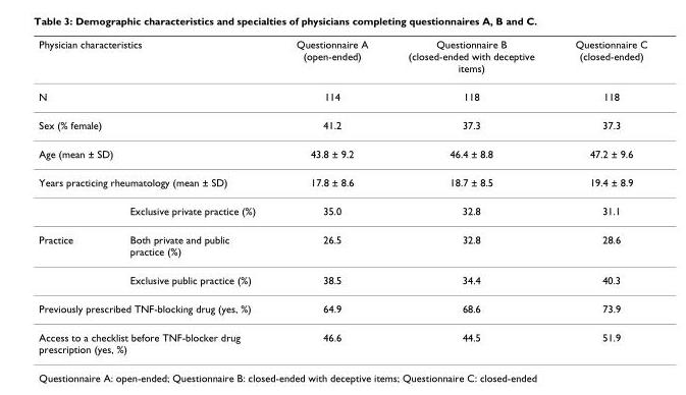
<table><thead><tr><td colspan="2">Physician characteristics</td><td>Questionnaire A (open-ended)</td><td>Questionnaire B (closed-ended with deceptive items)</td><td>Questionnaire C (closed-ended)</td></tr></thead><tbody><tr><td colspan="2">N</td><td>114</td><td>118</td><td>118</td></tr><tr><td colspan="2">Sex (% female)</td><td>41.2</td><td>37.3</td><td>37.3</td></tr><tr><td colspan="2">Age (mean ± SD)</td><td>43.8 ± 9.2</td><td>46.4 ± 8.8</td><td>47.2 ± 9.6</td></tr><tr><td colspan="2">Years practicing rheumatology (mean ± SD)</td><td>17.8 ± 8.6</td><td>18.7 ± 8.5</td><td>19.4 ± 8.9</td></tr><tr><td></td><td>Exclusive private practice (%)</td><td>35.0</td><td>32.8</td><td>31.1</td></tr><tr><td rowspan="2">Practice</td><td>Both private and public practice (%)</td><td>26.5</td><td>32.8</td><td>28.6</td></tr><tr><td>Exclusive public practice (%)</td><td>38.5</td><td>34.4</td><td>40.3</td></tr><tr><td colspan="2">Previously prescribed TNF-blocking drug (yes, %)</td><td>64.9</td><td>68.6</td><td>73.9</td></tr><tr><td colspan="2">Access to a checklist before TNF-blocker drug prescription (yes, %)</td><td>46.6</td><td>44.5</td><td>51.9</td></tr></tbody></table>